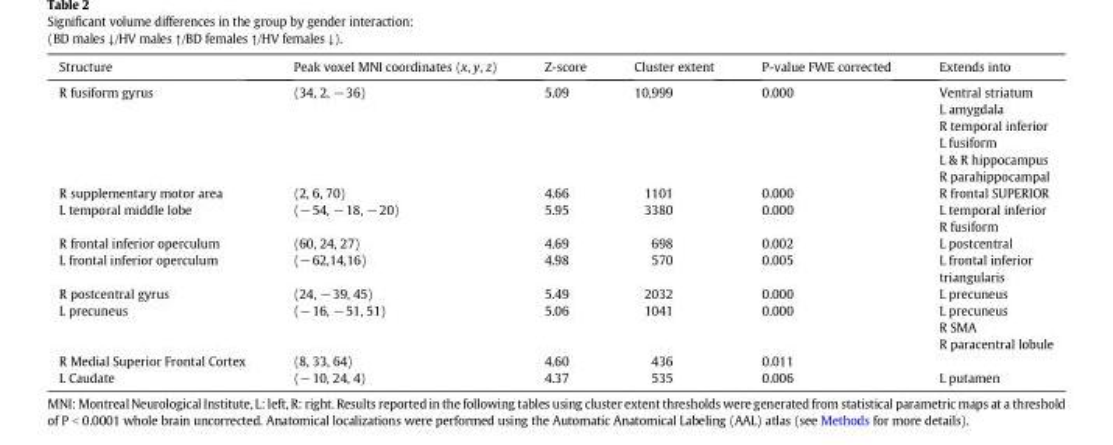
<table><thead><tr><td>Structure</td><td>Peak voxel MNI coordinates (x, y, z)</td><td>Z-score</td><td>Cluster extent</td><td>P-value FWE corrected</td><td>Extends into</td></tr></thead><tbody><tr><td>R fusiform gyrus</td><td>(34, 2, −36)</td><td>5.09</td><td>10,999</td><td>0.000</td><td>Ventral striatum L amygdala R temporal inferior L fusiform L &amp; R hippocampus R parahippocampal</td></tr><tr><td>R supplementary motor area</td><td>(2, 6, 70)</td><td>4.66</td><td>1101</td><td>0.000</td><td>R frontal SUPERIOR</td></tr><tr><td>L temporal middle lobe</td><td>(−54, −18, −20)</td><td>5.95</td><td>3380</td><td>0.000</td><td>L temporal inferior R fusiform</td></tr><tr><td>R frontal inferior operculum</td><td>(60, 24, 27)</td><td>4.69</td><td>698</td><td>0.002</td><td>L postcentral</td></tr><tr><td>L frontal inferior operculum</td><td>(−62,14,16)</td><td>4.98</td><td>570</td><td>0.005</td><td>L frontal inferior triangularis</td></tr><tr><td>R postcentral gyrus</td><td>(24, −39, 45)</td><td>5.49</td><td>2032</td><td>0.000</td><td>L precuneus</td></tr><tr><td>L precuneus</td><td>(−16, −51, 51)</td><td>5.06</td><td>1041</td><td>0.000</td><td>L precuneus R SMA R paracentral lobule</td></tr><tr><td>R Medial Superior Frontal Cortex</td><td>(8, 33, 64)</td><td>4.60</td><td>436</td><td>0.011</td><td></td></tr><tr><td>L Caudate</td><td>(−10, 24, 4)</td><td>4.37</td><td>535</td><td>0.006</td><td>L putamen</td></tr></tbody></table>